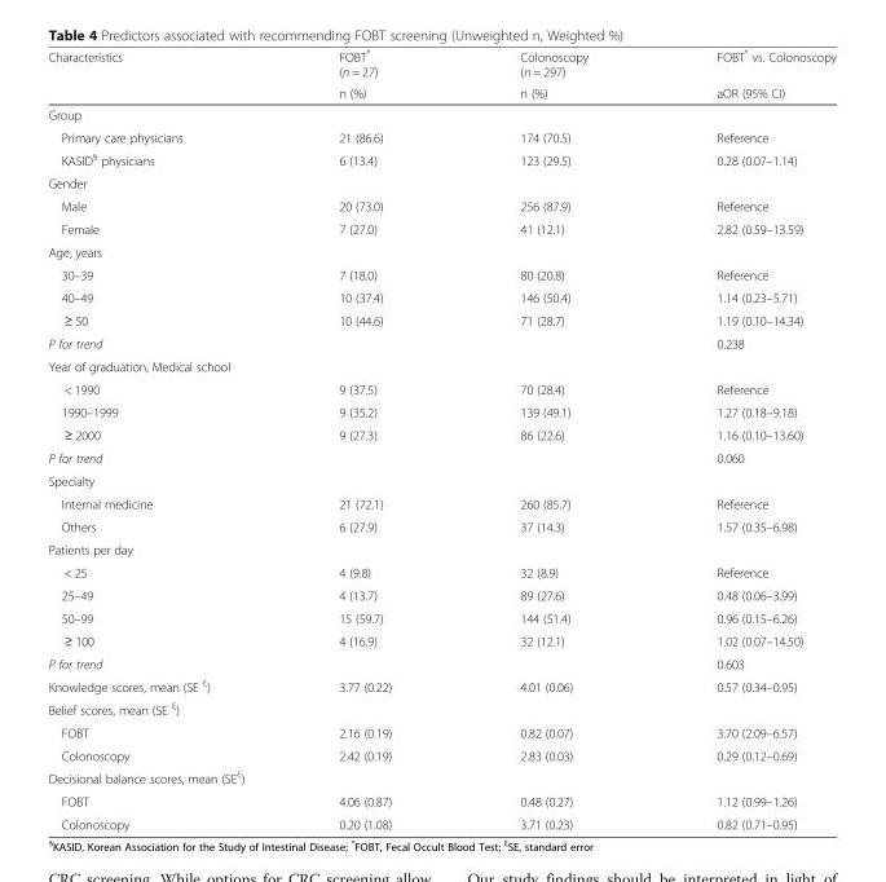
<table><thead><tr><td rowspan="2">Characteristics</td><td rowspan="2">FOBT* (n = 27) n (%)</td><td rowspan="2">Colonoscopy (n = 297) n (%)</td><td rowspan="2">FOBT* vs. Colonoscopy aOR (95% CI)</td></tr><tr></tr></thead><tbody><tr><td colspan="4">Group</td></tr><tr><td>Primary care physicians</td><td>21 (86.6)</td><td>174 (70.5)</td><td>Reference</td></tr><tr><td>KASID<sup>§</sup> physicians</td><td>6 (13.4)</td><td>123 (29.5)</td><td>0.28 (0.07–1.14)</td></tr><tr><td colspan="4">Gender</td></tr><tr><td>Male</td><td>20 (73.0)</td><td>256 (87.9)</td><td>Reference</td></tr><tr><td>Female</td><td>7 (27.0)</td><td>41 (12.1)</td><td>2.82 (0.59–13.59)</td></tr><tr><td colspan="4">Age, years</td></tr><tr><td>30–39</td><td>7 (18.0)</td><td>80 (20.8)</td><td>Reference</td></tr><tr><td>40–49</td><td>10 (37.4)</td><td>146 (50.4)</td><td>1.14 (0.23–5.71)</td></tr><tr><td>≥ 50</td><td>10 (44.6)</td><td>71 (28.7)</td><td>1.19 (0.10–14.34)</td></tr><tr><td>P for trend</td><td></td><td></td><td>0.238</td></tr><tr><td colspan="4">Year of graduation, Medical school</td></tr><tr><td>&lt; 1990</td><td>9 (37.5)</td><td>70 (28.4)</td><td>Reference</td></tr><tr><td>1990–1999</td><td>9 (35.2)</td><td>139 (49.1)</td><td>1.27 (0.18–9.18)</td></tr><tr><td>≥ 2000</td><td>9 (27.3)</td><td>86 (22.6)</td><td>1.16 (0.10–13.60)</td></tr><tr><td>P for trend</td><td></td><td></td><td>0.060</td></tr><tr><td colspan="4">Specialty</td></tr><tr><td>Internal medicine</td><td>21 (72.1)</td><td>260 (85.7)</td><td>Reference</td></tr><tr><td>Others</td><td>6 (27.9)</td><td>37 (14.3)</td><td>1.57 (0.35–6.98)</td></tr><tr><td colspan="4">Patients per day</td></tr><tr><td>&lt; 25</td><td>4 (9.8)</td><td>32 (8.9)</td><td>Reference</td></tr><tr><td>25–49</td><td>4 (13.7)</td><td>89 (27.6)</td><td>0.48 (0.06–3.99)</td></tr><tr><td>50–99</td><td>15 (59.7)</td><td>144 (51.4)</td><td>0.96 (0.15–6.26)</td></tr><tr><td>≥ 100</td><td>4 (16.9)</td><td>32 (12.1)</td><td>1.02 (0.07–14.50)</td></tr><tr><td>P for trend</td><td></td><td></td><td>0.603</td></tr><tr><td>Knowledge scores, mean (SE <sup>ξ</sup>)</td><td>3.77 (0.22)</td><td>4.01 (0.06)</td><td>0.57 (0.34–0.95)</td></tr><tr><td colspan="4">Belief scores, mean (SE <sup>ξ</sup>)</td></tr><tr><td>FOBT</td><td>2.16 (0.19)</td><td>0.82 (0.07)</td><td>3.70 (2.09–6.57)</td></tr><tr><td>Colonoscopy</td><td>2.42 (0.19)</td><td>2.83 (0.03)</td><td>0.29 (0.12–0.69)</td></tr><tr><td colspan="4">Decisional balance scores, mean (SE<sup>ξ</sup>)</td></tr><tr><td>FOBT</td><td>4.06 (0.87)</td><td>0.48 (0.27)</td><td>1.12 (0.99–1.26)</td></tr><tr><td>Colonoscopy</td><td>0.20 (1.08)</td><td>3.71 (0.23)</td><td>0.82 (0.71–0.95)</td></tr></tbody></table>